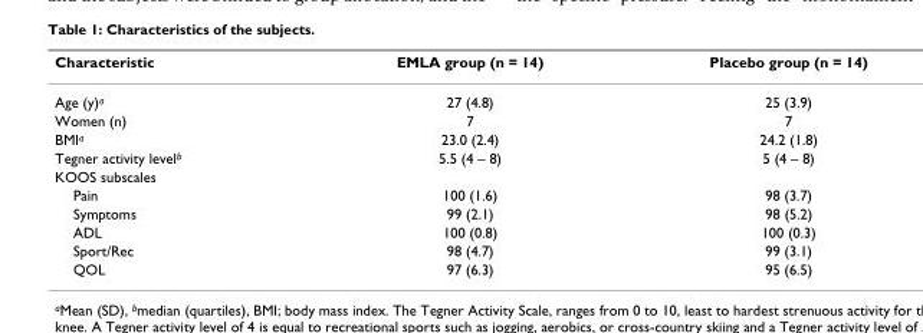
<table><thead><tr><td>Characteristic</td><td>EMLA group (n = 14)</td><td>Placebo group (n = 14)</td></tr></thead><tbody><tr><td>Age (y)<sup>a</sup></td><td>27 (4.8)</td><td>25 (3.9)</td></tr><tr><td>Women (n)</td><td>7</td><td>7</td></tr><tr><td>BMI<sup>a</sup></td><td>23.0 (2.4)</td><td>24.2 (1.8)</td></tr><tr><td>Tegner activity level<sup>b</sup></td><td>5.5 (4 – 8)</td><td>5 (4 – 8)</td></tr><tr><td colspan="3">KOOS subscales</td></tr><tr><td>Pain</td><td>100 (1.6)</td><td>98 (3.7)</td></tr><tr><td>Symptoms</td><td>99 (2.1)</td><td>98 (5.2)</td></tr><tr><td>ADL</td><td>100 (0.8)</td><td>100 (0.3)</td></tr><tr><td>Sport/Rec</td><td>98 (4.7)</td><td>99 (3.1)</td></tr><tr><td>QOL</td><td>97 (6.3)</td><td>95 (6.5)</td></tr></tbody></table>